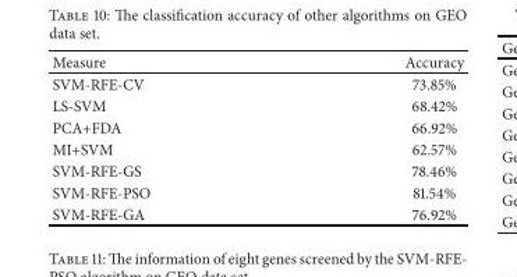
<table><thead><tr><td>Measure</td><td>Accuracy</td></tr></thead><tbody><tr><td>SVM-RFE-CV</td><td>73.85%</td></tr><tr><td>LS-SVM</td><td>68.42%</td></tr><tr><td>PCA+FDA</td><td>66.92%</td></tr><tr><td>MI+SVM</td><td>62.57%</td></tr><tr><td>SVM-RFE-GS</td><td>78.46%</td></tr><tr><td>SVM-RFE-PSO</td><td>81.54%</td></tr><tr><td>SVM-RFE-GA</td><td>76.92%</td></tr></tbody></table>